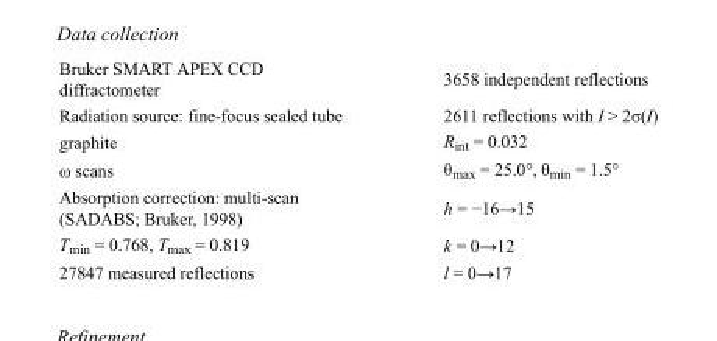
<table><tbody><tr><td>Bruker SMART APEX CCD diffractometer</td><td>3658 independent reflections</td></tr><tr><td>Radiation source: fine-focus sealed tube</td><td>2611 reflections with I &gt; 2σ(I)</td></tr><tr><td>graphite</td><td>R<sub>int</sub> = 0.032</td></tr><tr><td>ω scans</td><td>θ<sub>max</sub> = 25.0°, θ<sub>min</sub> = 1.5°</td></tr><tr><td>Absorption correction: multi-scan (SADABS; Bruker, 1998)</td><td>h = −16→15</td></tr><tr><td>T<sub>min</sub> = 0.768, T<sub>max</sub> = 0.819</td><td>k = 0→12</td></tr><tr><td>27847 measured reflections</td><td>l = 0→17</td></tr></tbody></table>